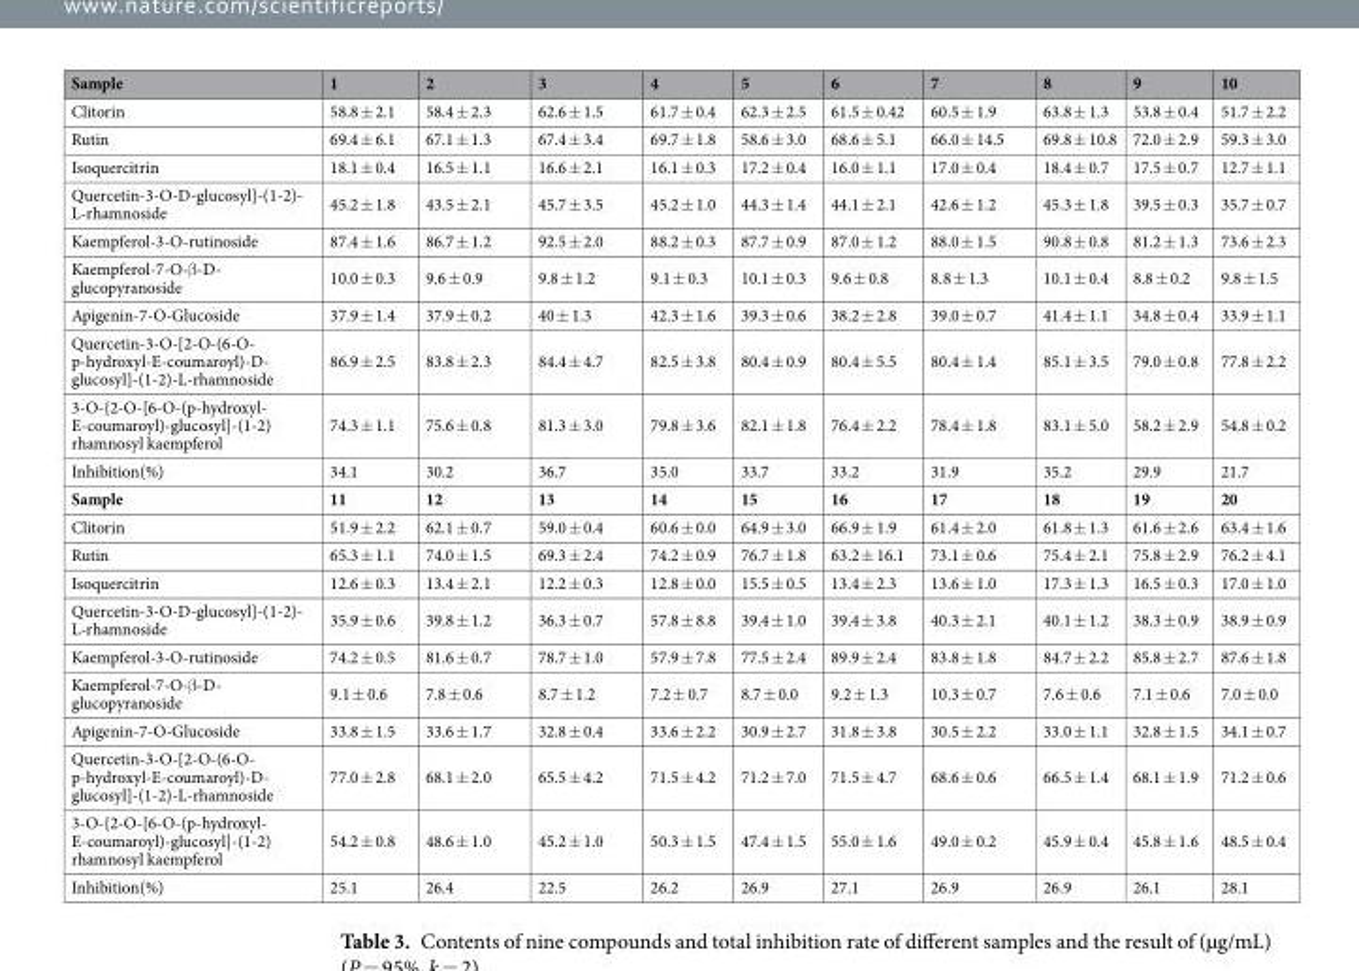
<table><thead><tr><td>Sample</td><td>1</td><td>2</td><td>3</td><td>4</td><td>5</td><td>6</td><td>7</td><td>8</td><td>9</td><td>10</td></tr></thead><tbody><tr><td>Clitorin</td><td>58.8 ± 2.1</td><td>58.4 ± 2.3</td><td>62.6 ± 1.5</td><td>61.7 ± 0.4</td><td>62.3 ± 2.5</td><td>61.5 ± 0.42</td><td>60.5 ± 1.9</td><td>63.8 ± 1.3</td><td>53.8 ± 0.4</td><td>51.7 ± 2.2</td></tr><tr><td>Rutin</td><td>69.4 ± 6.1</td><td>67.1 ± 1.3</td><td>67.4 ± 3.4</td><td>69.7 ± 1.8</td><td>58.6 ± 3.0</td><td>68.6 ± 5.1</td><td>66.0 ± 14.5</td><td>69.8 ± 10.8</td><td>72.0 ± 2.9</td><td>59.3 ± 3.0</td></tr><tr><td>Isoquercitrin</td><td>18.1 ± 0.4</td><td>16.5 ± 1.1</td><td>16.6 ± 2.1</td><td>16.1 ± 0.3</td><td>17.2 ± 0.4</td><td>16.0 ± 1.1</td><td>17.0 ± 0.4</td><td>18.4 ± 0.7</td><td>17.5 ± 0.7</td><td>12.7 ± 1.1</td></tr><tr><td>Quercetin-3-O-D-glucosyl]-(1-2)- L-rhamnoside</td><td>45.2 ± 1.8</td><td>43.5 ± 2.1</td><td>45.7 ± 3.5</td><td>45.2 ± 1.0</td><td>44.3 ± 1.4</td><td>44.1 ± 2.1</td><td>42.6 ± 1.2</td><td>45.3 ± 1.8</td><td>39.5 ± 0.3</td><td>35.7 ± 0.7</td></tr><tr><td>Kaempferol-3-O-rutinoside</td><td>87.4 ± 1.6</td><td>86.7 ± 1.2</td><td>92.5 ± 2.0</td><td>88.2 ± 0.3</td><td>87.7 ± 0.9</td><td>87.0 ± 1.2</td><td>88.0 ± 1.5</td><td>90.8 ± 0.8</td><td>81.2 ± 1.3</td><td>73.6 ± 2.3</td></tr><tr><td>Kaempferol-7-O-β-D- glucopyranoside</td><td>10.0 ± 0.3</td><td>9.6 ± 0.9</td><td>9.8 ± 1.2</td><td>9.1 ± 0.3</td><td>10.1 ± 0.3</td><td>9.6 ± 0.8</td><td>8.8 ± 1.3</td><td>10.1 ± 0.4</td><td>8.8 ± 0.2</td><td>9.8 ± 1.5</td></tr><tr><td>Apigenin-7-O-Glucoside</td><td>37.9 ± 1.4</td><td>37.9 ± 0.2</td><td>40 ± 1.3</td><td>42.3 ± 1.6</td><td>39.3 ± 0.6</td><td>38.2 ± 2.8</td><td>39.0 ± 0.7</td><td>41.4 ± 1.1</td><td>34.8 ± 0.4</td><td>33.9 ± 1.1</td></tr><tr><td>Quercetin-3-O-[2-O-(6-O- p-hydroxyl-E-coumaroyl)-D- glucosyl]-(1-2)-L-rhamnoside</td><td>86.9 ± 2.5</td><td>83.8 ± 2.3</td><td>84.4 ± 4.7</td><td>82.5 ± 3.8</td><td>80.4 ± 0.9</td><td>80.4 ± 5.5</td><td>80.4 ± 1.4</td><td>85.1 ± 3.5</td><td>79.0 ± 0.8</td><td>77.8 ± 2.2</td></tr><tr><td>3-O-{2-O-[6-O-(p-hydroxyl- E-coumaroyl)-glucosyl]-(1-2) rhamnosyl kaempferol</td><td>74.3 ± 1.1</td><td>75.6 ± 0.8</td><td>81.3 ± 3.0</td><td>79.8 ± 3.6</td><td>82.1 ± 1.8</td><td>76.4 ± 2.2</td><td>78.4 ± 1.8</td><td>83.1 ± 5.0</td><td>58.2 ± 2.9</td><td>54.8 ± 0.2</td></tr><tr><td>Inhibition(%)</td><td>34.1</td><td>30.2</td><td>36.7</td><td>35.0</td><td>33.7</td><td>33.2</td><td>31.9</td><td>35.2</td><td>29.9</td><td>21.7</td></tr><tr><td>Sample</td><td>11</td><td>12</td><td>13</td><td>14</td><td>15</td><td>16</td><td>17</td><td>18</td><td>19</td><td>20</td></tr><tr><td>Clitorin</td><td>51.9 ± 2.2</td><td>62.1 ± 0.7</td><td>59.0 ± 0.4</td><td>60.6 ± 0.0</td><td>64.9 ± 3.0</td><td>66.9 ± 1.9</td><td>61.4 ± 2.0</td><td>61.8 ± 1.3</td><td>61.6 ± 2.6</td><td>63.4 ± 1.6</td></tr><tr><td>Rutin</td><td>65.3 ± 1.1</td><td>74.0 ± 1.5</td><td>69.3 ± 2.4</td><td>74.2 ± 0.9</td><td>76.7 ± 1.8</td><td>63.2 ± 16.1</td><td>73.1 ± 0.6</td><td>75.4 ± 2.1</td><td>75.8 ± 2.9</td><td>76.2 ± 4.1</td></tr><tr><td>Isoquercitrin</td><td>12.6 ± 0.3</td><td>13.4 ± 2.1</td><td>12.2 ± 0.3</td><td>12.8 ± 0.0</td><td>15.5 ± 0.5</td><td>13.4 ± 2.3</td><td>13.6 ± 1.0</td><td>17.3 ± 1.3</td><td>16.5 ± 0.3</td><td>17.0 ± 1.0</td></tr><tr><td>Quercetin-3-O-D-glucosyl]-(1-2)- L-rhamnoside</td><td>35.9 ± 0.6</td><td>39.8 ± 1.2</td><td>36.3 ± 0.7</td><td>57.8 ± 8.8</td><td>39.4 ± 1.0</td><td>39.4 ± 3.8</td><td>40.3 ± 2.1</td><td>40.1 ± 1.2</td><td>38.3 ± 0.9</td><td>38.9 ± 0.9</td></tr><tr><td>Kaempferol-3-O-rutinoside</td><td>74.2 ± 0.5</td><td>81.6 ± 0.7</td><td>78.7 ± 1.0</td><td>57.9 ± 7.8</td><td>77.5 ± 2.4</td><td>89.9 ± 2.4</td><td>83.8 ± 1.8</td><td>84.7 ± 2.2</td><td>85.8 ± 2.7</td><td>87.6 ± 1.8</td></tr><tr><td>Kaempferol-7-O-β-D- glucopyranoside</td><td>9.1 ± 0.6</td><td>7.8 ± 0.6</td><td>8.7 ± 1.2</td><td>7.2 ± 0.7</td><td>8.7 ± 0.0</td><td>9.2 ± 1.3</td><td>10.3 ± 0.7</td><td>7.6 ± 0.6</td><td>7.1 ± 0.6</td><td>7.0 ± 0.0</td></tr><tr><td>Apigenin-7-O-Glucoside</td><td>33.8 ± 1.5</td><td>33.6 ± 1.7</td><td>32.8 ± 0.4</td><td>33.6 ± 2.2</td><td>30.9 ± 2.7</td><td>31.8 ± 3.8</td><td>30.5 ± 2.2</td><td>33.0 ± 1.1</td><td>32.8 ± 1.5</td><td>34.1 ± 0.7</td></tr><tr><td>Quercetin-3-O-[2-O-(6-O- p-hydroxyl-E-coumaroyl)-D- glucosyl]-(1-2)-L-rhamnoside</td><td>77.0 ± 2.8</td><td>68.1 ± 2.0</td><td>65.5 ± 4.2</td><td>71.5 ± 4.2</td><td>71.2 ± 7.0</td><td>71.5 ± 4.7</td><td>68.6 ± 0.6</td><td>66.5 ± 1.4</td><td>68.1 ± 1.9</td><td>71.2 ± 0.6</td></tr><tr><td>3-O-{2-O-[6-O-(p-hydroxyl- E-coumaroyl)-glucosyl]-(1-2) rhamnosyl kaempferol</td><td>54.2 ± 0.8</td><td>48.6 ± 1.0</td><td>45.2 ± 1.0</td><td>50.3 ± 1.5</td><td>47.4 ± 1.5</td><td>55.0 ± 1.6</td><td>49.0 ± 0.2</td><td>45.9 ± 0.4</td><td>45.8 ± 1.6</td><td>48.5 ± 0.4</td></tr><tr><td>Inhibition(%)</td><td>25.1</td><td>26.4</td><td>22.5</td><td>26.2</td><td>26.9</td><td>27.1</td><td>26.9</td><td>26.9</td><td>26.1</td><td>28.1</td></tr></tbody></table>